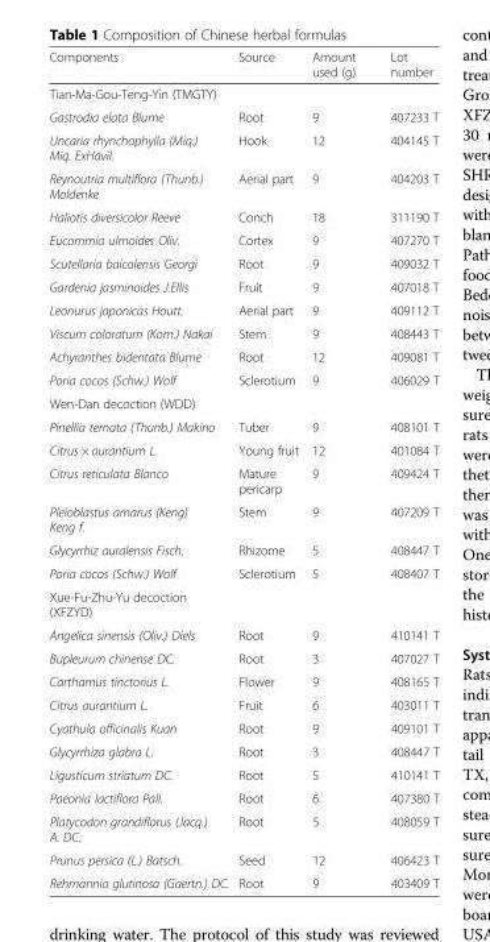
<table><thead><tr><td>Components</td><td>Source</td><td>Amount used (g)</td><td>Lot number</td></tr></thead><tbody><tr><td colspan="4">Tian-Ma-Gou-Teng-Yin (TMGTY)</td></tr><tr><td>Gastrodia elata Blume</td><td>Root</td><td>9</td><td>407233 T</td></tr><tr><td>Uncaria rhynchophylla (Miq.) Miq. ExHavil.</td><td>Hook</td><td>12</td><td>404145 T</td></tr><tr><td>Reynoutria multiflora (Thunb.) Moldenke</td><td>Aerial part</td><td>9</td><td>404203 T</td></tr><tr><td>Haliotis diversicolor Reeve</td><td>Conch</td><td>18</td><td>311190 T</td></tr><tr><td>Eucommia ulmoides Oliv.</td><td>Cortex</td><td>9</td><td>407270 T</td></tr><tr><td>Scutellaria baicalensis Georgi</td><td>Root</td><td>9</td><td>409032 T</td></tr><tr><td>Gardenia jasminoides J.Ellis</td><td>Fruit</td><td>9</td><td>407018 T</td></tr><tr><td>Leonurus japonicas Houtt.</td><td>Aerial part</td><td>9</td><td>409112 T</td></tr><tr><td>Viscum coloratum (Kom.) Nakai</td><td>Stem</td><td>9</td><td>408443 T</td></tr><tr><td>Achyranthes bidentata Blume</td><td>Root</td><td>12</td><td>409081 T</td></tr><tr><td>Poria cocos (Schw.) Wolf</td><td>Sclerotium</td><td>9</td><td>406029 T</td></tr><tr><td colspan="4">Wen-Dan decoction (WDD)</td></tr><tr><td>Pinellia ternata (Thunb.) Makino</td><td>Tuber</td><td>9</td><td>408101 T</td></tr><tr><td>Citrus × aurantium L.</td><td>Young fruit</td><td>12</td><td>401084 T</td></tr><tr><td>Citrus reticulata Blanco</td><td>Mature pericarp</td><td>9</td><td>409424 T</td></tr><tr><td>Pleioblastus amarus (Keng) Keng f.</td><td>Stem</td><td>9</td><td>407209 T</td></tr><tr><td>Glycyrrhiz auralensis Fisch.</td><td>Rhizome</td><td>5</td><td>408447 T</td></tr><tr><td>Poria cocos (Schw.) Wolf</td><td>Sclerotium</td><td>5</td><td>408407 T</td></tr><tr><td colspan="4">Xue-Fu-Zhu-Yu decoction (XFZYD)</td></tr><tr><td>Angelica sinensis (Oliv.) Diels</td><td>Root</td><td>9</td><td>410141 T</td></tr><tr><td>Bupleurum chinense DC.</td><td>Root</td><td>3</td><td>407027 T</td></tr><tr><td>Carthamus tinctorius L.</td><td>Flower</td><td>9</td><td>408165 T</td></tr><tr><td>Citrus aurantium L.</td><td>Fruit</td><td>6</td><td>403011 T</td></tr><tr><td>Cyathula officinalis Kuan</td><td>Root</td><td>9</td><td>409101 T</td></tr><tr><td>Glycyrrhiza glabra L.</td><td>Root</td><td>3</td><td>408447 T</td></tr><tr><td>Ligusticum striatum DC.</td><td>Root</td><td>5</td><td>410141 T</td></tr><tr><td>Paeonia lactiflora Pall.</td><td>Root</td><td>6</td><td>407380 T</td></tr><tr><td>Platycodon grandiflorus (Jacq.) A. DC.</td><td>Root</td><td>5</td><td>408059 T</td></tr><tr><td>Prunus persica (L.) Batsch.</td><td>Seed</td><td>12</td><td>406423 T</td></tr><tr><td>Rehmannia glutinosa (Gaertn.) DC.</td><td>Root</td><td>9</td><td>403409 T</td></tr></tbody></table>